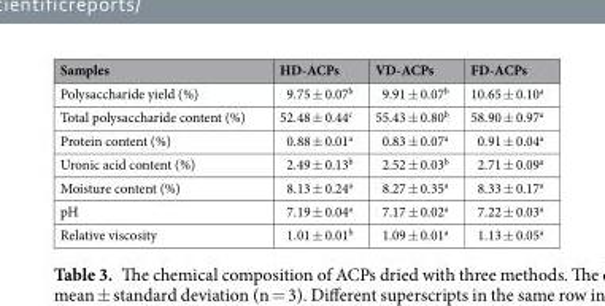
<table><thead><tr><td>Samples</td><td>HD-ACPs</td><td>VD-ACPs</td><td>FD-ACPs</td></tr></thead><tbody><tr><td>Polysaccharide yield (%)</td><td>9.75 ± 0.07<sup>b</sup></td><td>9.91 ± 0.07<sup>b</sup></td><td>10.65 ± 0.10<sup>a</sup></td></tr><tr><td>Total polysaccharide content (%)</td><td>52.48 ± 0.44<sup>c</sup></td><td>55.43 ± 0.80<sup>b</sup></td><td>58.90 ± 0.97<sup>a</sup></td></tr><tr><td>Protein content (%)</td><td>0.88 ± 0.01<sup>a</sup></td><td>0.83 ± 0.07<sup>a</sup></td><td>0.91 ± 0.04<sup>a</sup></td></tr><tr><td>Uronic acid content (%)</td><td>2.49 ± 0.13<sup>b</sup></td><td>2.52 ± 0.03<sup>b</sup></td><td>2.71 ± 0.09<sup>a</sup></td></tr><tr><td>Moisture content (%)</td><td>8.13 ± 0.24<sup>a</sup></td><td>8.27 ± 0.35<sup>a</sup></td><td>8.33 ± 0.17<sup>a</sup></td></tr><tr><td>pH</td><td>7.19 ± 0.04<sup>a</sup></td><td>7.17 ± 0.02<sup>a</sup></td><td>7.22 ± 0.03<sup>a</sup></td></tr><tr><td>Relative viscosity</td><td>1.01 ± 0.01<sup>b</sup></td><td>1.09 ± 0.01<sup>a</sup></td><td>1.13 ± 0.05<sup>a</sup></td></tr></tbody></table>